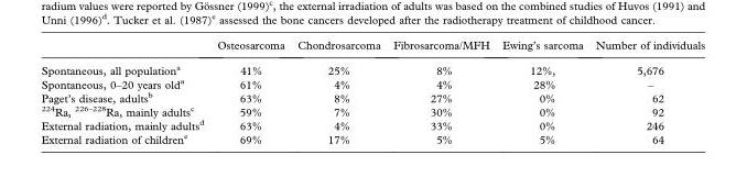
<table><thead><tr><td></td><td>Osteosarcoma</td><td>Chondrosarcoma</td><td>Fibrosarcoma/MFH</td><td>Ewing’s sarcoma</td><td>Number of individuals</td></tr></thead><tbody><tr><td>Spontaneous, all population<sup>a</sup></td><td>41%</td><td>25%</td><td>8%</td><td>12%,</td><td>5,676</td></tr><tr><td>Spontaneous, 0–20 years old<sup>a</sup></td><td>61%</td><td>4%</td><td>4%</td><td>28%</td><td>–</td></tr><tr><td>Paget’s disease, adults<sup>b</sup></td><td>63%</td><td>8%</td><td>27%</td><td>0%</td><td>62</td></tr><tr><td><sup>224</sup>Ra, <sup>226–228</sup>Ra, mainly adults<sup>c</sup></td><td>59%</td><td>7%</td><td>30%</td><td>0%</td><td>92</td></tr><tr><td>External radiation, mainly adults<sup>d</sup></td><td>63%</td><td>4%</td><td>33%</td><td>0%</td><td>246</td></tr><tr><td>External radiation of children<sup>e</sup></td><td>69%</td><td>17%</td><td>5%</td><td>5%</td><td>64</td></tr></tbody></table>